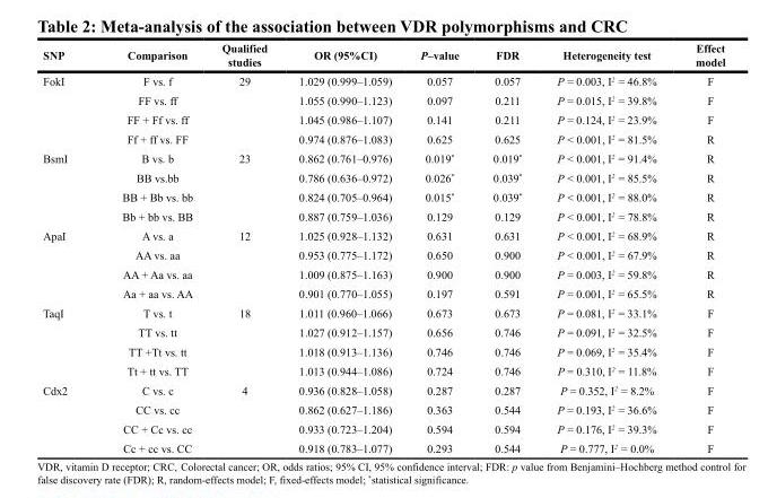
<table><thead><tr><td>SNP</td><td>Comparison</td><td>Qualified studies</td><td>OR (95%CI)</td><td>P–value</td><td>FDR</td><td>Heterogeneity test</td><td>Effect model</td></tr></thead><tbody><tr><td rowspan="4">FokI</td><td>F vs. f</td><td>29</td><td>1.029 (0.999–1.059)</td><td>0.057</td><td>0.057</td><td>P = 0.003, I<sup>2</sup> = 46.8%</td><td>F</td></tr><tr><td>FF vs. ff</td><td></td><td>1.055 (0.990–1.123)</td><td>0.097</td><td>0.211</td><td>P = 0.015, I<sup>2</sup> = 39.8%</td><td>F</td></tr><tr><td>FF + Ff vs. ff</td><td></td><td>1.045 (0.986–1.107)</td><td>0.141</td><td>0.211</td><td>P = 0.124, I<sup>2</sup> = 23.9%</td><td>F</td></tr><tr><td>Ff + ff vs. FF</td><td></td><td>0.974 (0.876–1.083)</td><td>0.625</td><td>0.625</td><td>P &lt; 0.001, I<sup>2</sup> = 81.5%</td><td>R</td></tr><tr><td rowspan="4">BsmI</td><td>B vs. b</td><td>23</td><td>0.862 (0.761–0.976)</td><td>0.019*</td><td>0.019*</td><td>P &lt; 0.001, I<sup>2</sup> = 91.4%</td><td>R</td></tr><tr><td>BB vs.bb</td><td></td><td>0.786 (0.636–0.972)</td><td>0.026*</td><td>0.039*</td><td>P &lt; 0.001, I<sup>2</sup> = 85.5%</td><td>R</td></tr><tr><td>BB + Bb vs. bb</td><td></td><td>0.824 (0.705–0.964)</td><td>0.015*</td><td>0.039*</td><td>P &lt; 0.001, I<sup>2</sup> = 88.0%</td><td>R</td></tr><tr><td>Bb + bb vs. BB</td><td></td><td>0.887 (0.759–1.036)</td><td>0.129</td><td>0.129</td><td>P &lt; 0.001, I<sup>2</sup> = 78.8%</td><td>R</td></tr><tr><td rowspan="4">ApaI</td><td>A vs. a</td><td>12</td><td>1.025 (0.928–1.132)</td><td>0.631</td><td>0.631</td><td>P &lt; 0.001, I<sup>2</sup> = 68.9%</td><td>R</td></tr><tr><td>AA vs. aa</td><td></td><td>0.953 (0.775–1.172)</td><td>0.650</td><td>0.900</td><td>P &lt; 0.001, I<sup>2</sup> = 67.9%</td><td>R</td></tr><tr><td>AA + Aa vs. aa</td><td></td><td>1.009 (0.875–1.163)</td><td>0.900</td><td>0.900</td><td>P = 0.003, I<sup>2</sup> = 59.8%</td><td>R</td></tr><tr><td>Aa + aa vs. AA</td><td></td><td>0.901 (0.770–1.055)</td><td>0.197</td><td>0.591</td><td>P = 0.001, I<sup>2</sup> = 65.5%</td><td>R</td></tr><tr><td rowspan="4">TaqI</td><td>T vs. t</td><td>18</td><td>1.011 (0.960–1.066)</td><td>0.673</td><td>0.673</td><td>P = 0.081, I<sup>2</sup> = 33.1%</td><td>F</td></tr><tr><td>TT vs. tt</td><td></td><td>1.027 (0.912–1.157)</td><td>0.656</td><td>0.746</td><td>P = 0.091, I<sup>2</sup> = 32.5%</td><td>F</td></tr><tr><td>TT +Tt vs. tt</td><td></td><td>1.018 (0.913–1.136)</td><td>0.746</td><td>0.746</td><td>P = 0.069, I<sup>2</sup> = 35.4%</td><td>F</td></tr><tr><td>Tt + tt vs. TT</td><td></td><td>1.013 (0.944–1.086)</td><td>0.724</td><td>0.746</td><td>P = 0.310, I<sup>2</sup> = 11.8%</td><td>F</td></tr><tr><td rowspan="4">Cdx2</td><td>C vs. c</td><td>4</td><td>0.936 (0.828–1.058)</td><td>0.287</td><td>0.287</td><td>P = 0.352, I<sup>2</sup> = 8.2%</td><td>F</td></tr><tr><td>CC vs. cc</td><td></td><td>0.862 (0.627–1.186)</td><td>0.363</td><td>0.544</td><td>P = 0.193, I<sup>2</sup> = 36.6%</td><td>F</td></tr><tr><td>CC + Cc vs. cc</td><td></td><td>0.933 (0.723–1.204)</td><td>0.594</td><td>0.594</td><td>P = 0.176, I<sup>2</sup> = 39.3%</td><td>F</td></tr><tr><td>Cc + cc vs. CC</td><td></td><td>0.918 (0.783–1.077)</td><td>0.293</td><td>0.544</td><td>P = 0.777, I<sup>2</sup> = 0.0%</td><td>F</td></tr></tbody></table>